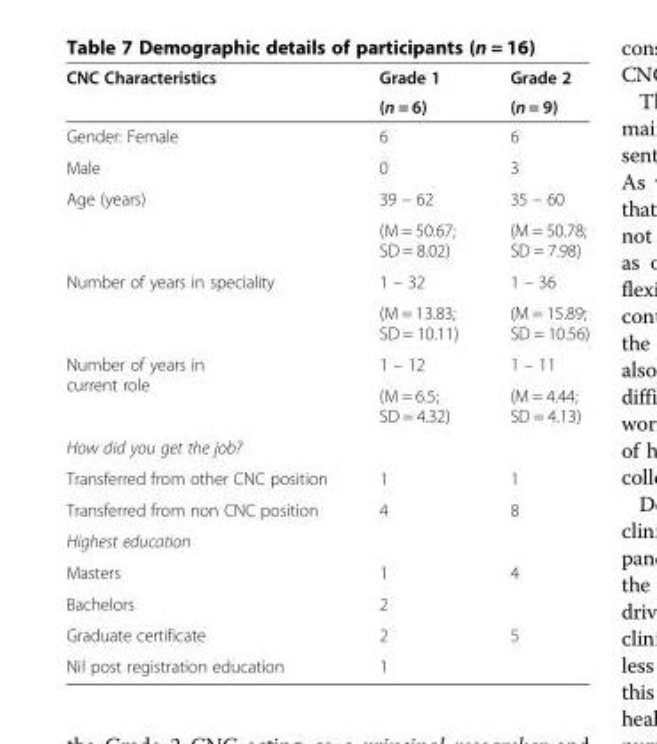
<table><thead><tr><td rowspan="2">CNC Characteristics</td><td rowspan="2">Grade 1 (n = 6)</td><td rowspan="2">Grade 2 (n = 9)</td></tr><tr></tr></thead><tbody><tr><td>Gender: Female</td><td>6</td><td>6</td></tr><tr><td>Male</td><td>0</td><td>3</td></tr><tr><td rowspan="2">Age (years)</td><td>39 – 62</td><td>35 – 60</td></tr><tr><td>(M = 50.67; SD = 8.02)</td><td>(M = 50.78; SD = 7.98)</td></tr><tr><td rowspan="2">Number of years in speciality</td><td>1 – 32</td><td>1 – 36</td></tr><tr><td>(M = 13.83; SD = 10.11)</td><td>(M = 15.89; SD = 10.56)</td></tr><tr><td rowspan="2">Number of years in current role</td><td>1 – 12</td><td>1 – 11</td></tr><tr><td>(M = 6.5; SD = 4.32)</td><td>(M = 4.44; SD = 4.13)</td></tr><tr><td colspan="3">How did you get the job?</td></tr><tr><td>Transferred from other CNC position</td><td>1</td><td>1</td></tr><tr><td>Transferred from non CNC position</td><td>4</td><td>8</td></tr><tr><td colspan="3">Highest education</td></tr><tr><td>Masters</td><td>1</td><td>4</td></tr><tr><td>Bachelors</td><td>2</td><td></td></tr><tr><td>Graduate certificate</td><td>2</td><td>5</td></tr><tr><td>Nil post registration education</td><td>1</td><td></td></tr></tbody></table>